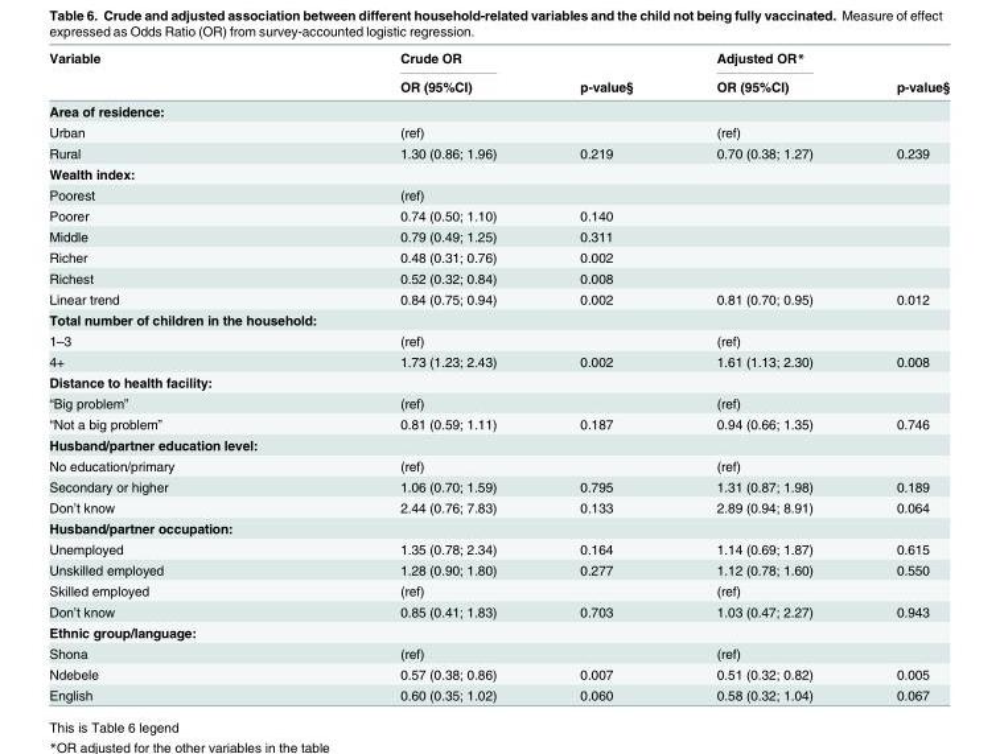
<table><thead><tr><td rowspan="2">Variable</td><td rowspan="2">Crude OR OR (95%CI)</td><td rowspan="2">p-value§</td><td rowspan="2">Adjusted OR* OR (95%CI)</td><td rowspan="2">p-value§</td></tr><tr></tr></thead><tbody><tr><td colspan="5">Area of residence:</td></tr><tr><td>Urban</td><td>(ref)</td><td></td><td>(ref)</td><td></td></tr><tr><td>Rural</td><td>1.30 (0.86; 1.96)</td><td>0.219</td><td>0.70 (0.38; 1.27)</td><td>0.239</td></tr><tr><td colspan="5">Wealth index:</td></tr><tr><td>Poorest</td><td>(ref)</td><td></td><td></td><td></td></tr><tr><td>Poorer</td><td>0.74 (0.50; 1.10)</td><td>0.140</td><td></td><td></td></tr><tr><td>Middle</td><td>0.79 (0.49; 1.25)</td><td>0.311</td><td></td><td></td></tr><tr><td>Richer</td><td>0.48 (0.31; 0.76)</td><td>0.002</td><td></td><td></td></tr><tr><td>Richest</td><td>0.52 (0.32; 0.84)</td><td>0.008</td><td></td><td></td></tr><tr><td>Linear trend</td><td>0.84 (0.75; 0.94)</td><td>0.002</td><td>0.81 (0.70; 0.95)</td><td>0.012</td></tr><tr><td colspan="5">Total number of children in the household:</td></tr><tr><td>1–3</td><td>(ref)</td><td></td><td>(ref)</td><td></td></tr><tr><td>4+</td><td>1.73 (1.23; 2.43)</td><td>0.002</td><td>1.61 (1.13; 2.30)</td><td>0.008</td></tr><tr><td colspan="5">Distance to health facility:</td></tr><tr><td>“Big problem”</td><td>(ref)</td><td></td><td>(ref)</td><td></td></tr><tr><td>“Not a big problem”</td><td>0.81 (0.59; 1.11)</td><td>0.187</td><td>0.94 (0.66; 1.35)</td><td>0.746</td></tr><tr><td colspan="5">Husband/partner education level:</td></tr><tr><td>No education/primary</td><td>(ref)</td><td></td><td>(ref)</td><td></td></tr><tr><td>Secondary or higher</td><td>1.06 (0.70; 1.59)</td><td>0.795</td><td>1.31 (0.87; 1.98)</td><td>0.189</td></tr><tr><td>Don’t know</td><td>2.44 (0.76; 7.83)</td><td>0.133</td><td>2.89 (0.94; 8.91)</td><td>0.064</td></tr><tr><td colspan="5">Husband/partner occupation:</td></tr><tr><td>Unemployed</td><td>1.35 (0.78; 2.34)</td><td>0.164</td><td>1.14 (0.69; 1.87)</td><td>0.615</td></tr><tr><td>Unskilled employed</td><td>1.28 (0.90; 1.80)</td><td>0.277</td><td>1.12 (0.78; 1.60)</td><td>0.550</td></tr><tr><td>Skilled employed</td><td>(ref)</td><td></td><td>(ref)</td><td></td></tr><tr><td>Don’t know</td><td>0.85 (0.41; 1.83)</td><td>0.703</td><td>1.03 (0.47; 2.27)</td><td>0.943</td></tr><tr><td colspan="5">Ethnic group/language:</td></tr><tr><td>Shona</td><td>(ref)</td><td></td><td>(ref)</td><td></td></tr><tr><td>Ndebele</td><td>0.57 (0.38; 0.86)</td><td>0.007</td><td>0.51 (0.32; 0.82)</td><td>0.005</td></tr><tr><td>English</td><td>0.60 (0.35; 1.02)</td><td>0.060</td><td>0.58 (0.32; 1.04)</td><td>0.067</td></tr></tbody></table>